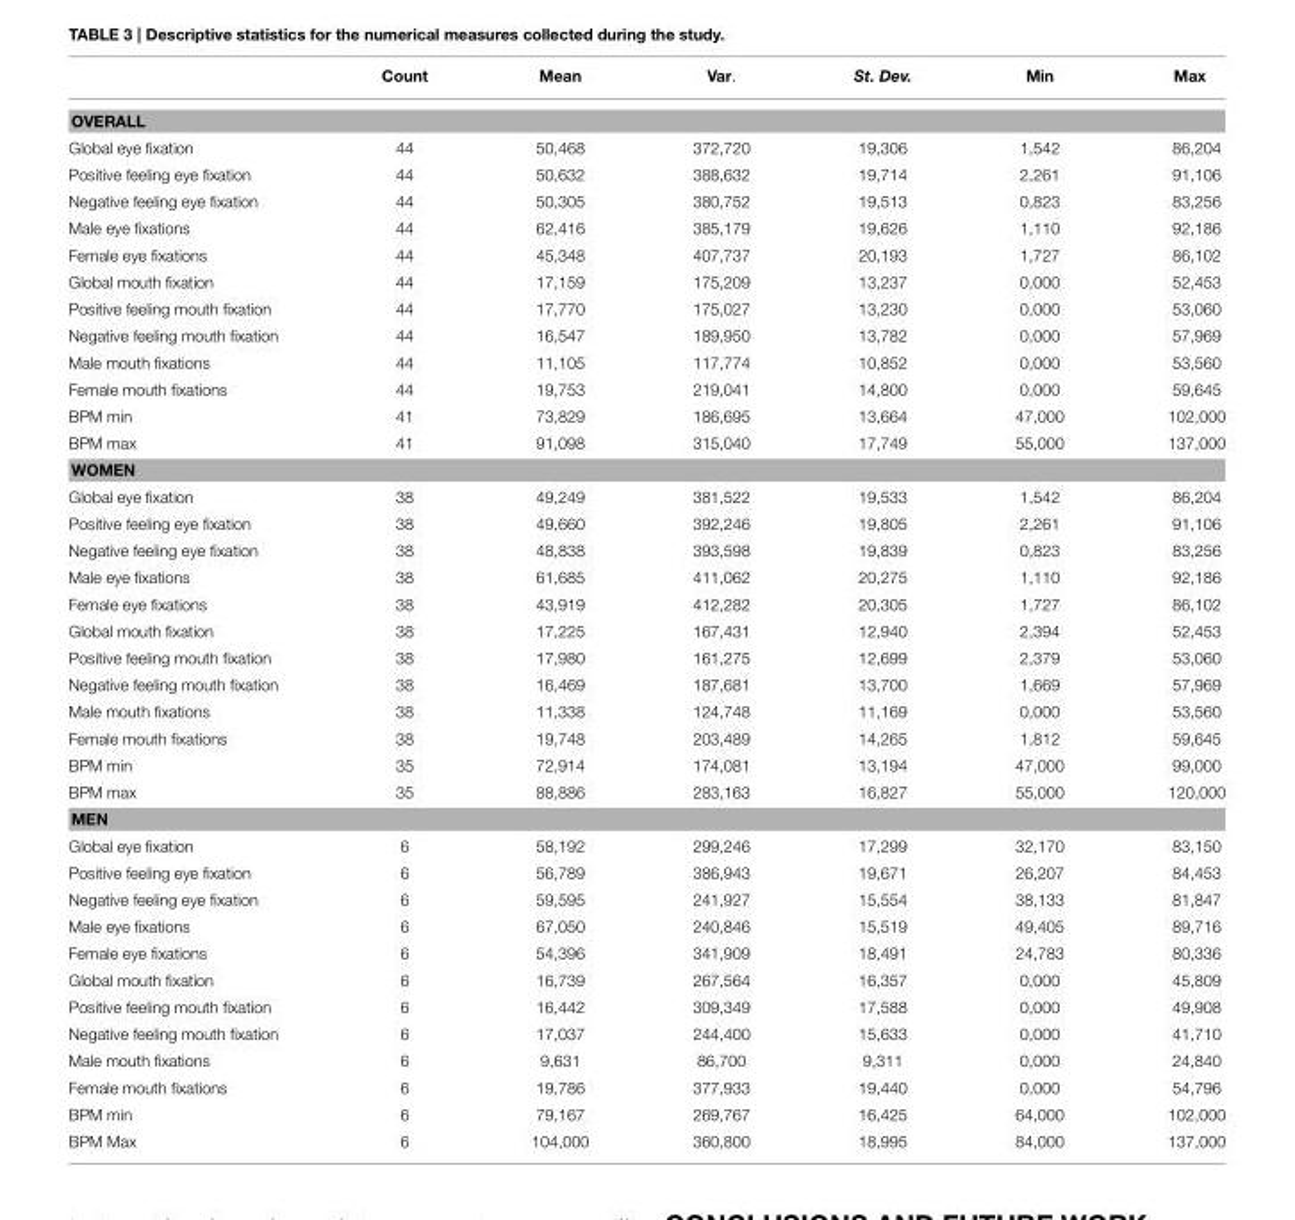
<table><thead><tr><td></td><td>Count</td><td>Mean</td><td>Var.</td><td>St. Dev.</td><td>Min</td><td>Max</td></tr></thead><tbody><tr><td colspan="7">OVERALL</td></tr><tr><td>Global eye fixation</td><td>44</td><td>50,468</td><td>372,720</td><td>19,306</td><td>1,542</td><td>86,204</td></tr><tr><td>Positive feeling eye fixation</td><td>44</td><td>50,632</td><td>388,632</td><td>19,714</td><td>2,261</td><td>91,106</td></tr><tr><td>Negative feeling eye fixation</td><td>44</td><td>50,305</td><td>380,752</td><td>19,513</td><td>0,823</td><td>83,256</td></tr><tr><td>Male eye fixations</td><td>44</td><td>62,416</td><td>385,179</td><td>19,626</td><td>1,110</td><td>92,186</td></tr><tr><td>Female eye fixations</td><td>44</td><td>45,348</td><td>407,737</td><td>20,193</td><td>1,727</td><td>86,102</td></tr><tr><td>Global mouth fixation</td><td>44</td><td>17,159</td><td>175,209</td><td>13,237</td><td>0,000</td><td>52,453</td></tr><tr><td>Positive feeling mouth fixation</td><td>44</td><td>17,770</td><td>175,027</td><td>13,230</td><td>0,000</td><td>53,060</td></tr><tr><td>Negative feeling mouth fixation</td><td>44</td><td>16,547</td><td>189,950</td><td>13,782</td><td>0,000</td><td>57,969</td></tr><tr><td>Male mouth fixations</td><td>44</td><td>11,105</td><td>117,774</td><td>10,852</td><td>0,000</td><td>53,560</td></tr><tr><td>Female mouth fixations</td><td>44</td><td>19,753</td><td>219,041</td><td>14,800</td><td>0,000</td><td>59,645</td></tr><tr><td>BPM min</td><td>41</td><td>73,829</td><td>186,695</td><td>13,664</td><td>47,000</td><td>102,000</td></tr><tr><td>BPM max</td><td>41</td><td>91,098</td><td>315,040</td><td>17,749</td><td>55,000</td><td>137,000</td></tr><tr><td colspan="7">WOMEN</td></tr><tr><td>Global eye fixation</td><td>38</td><td>49,249</td><td>381,522</td><td>19,533</td><td>1,542</td><td>86,204</td></tr><tr><td>Positive feeling eye fixation</td><td>38</td><td>49,660</td><td>392,246</td><td>19,805</td><td>2,261</td><td>91,106</td></tr><tr><td>Negative feeling eye fixation</td><td>38</td><td>48,838</td><td>393,598</td><td>19,839</td><td>0,823</td><td>83,256</td></tr><tr><td>Male eye fixations</td><td>38</td><td>61,685</td><td>411,062</td><td>20,275</td><td>1,110</td><td>92,186</td></tr><tr><td>Female eye fixations</td><td>38</td><td>43,919</td><td>412,282</td><td>20,305</td><td>1,727</td><td>86,102</td></tr><tr><td>Global mouth fixation</td><td>38</td><td>17,225</td><td>167,431</td><td>12,940</td><td>2,394</td><td>52,453</td></tr><tr><td>Positive feeling mouth fixation</td><td>38</td><td>17,980</td><td>161,275</td><td>12,699</td><td>2,379</td><td>53,060</td></tr><tr><td>Negative feeling mouth fixation</td><td>38</td><td>16,469</td><td>187,681</td><td>13,700</td><td>1,669</td><td>57,969</td></tr><tr><td>Male mouth fixations</td><td>38</td><td>11,338</td><td>124,748</td><td>11,169</td><td>0,000</td><td>53,560</td></tr><tr><td>Female mouth fixations</td><td>38</td><td>19,748</td><td>203,489</td><td>14,265</td><td>1,812</td><td>59,645</td></tr><tr><td>BPM min</td><td>35</td><td>72,914</td><td>174,081</td><td>13,194</td><td>47,000</td><td>99,000</td></tr><tr><td>BPM max</td><td>35</td><td>88,886</td><td>283,163</td><td>16,827</td><td>55,000</td><td>120,000</td></tr><tr><td colspan="7">MEN</td></tr><tr><td>Global eye fixation</td><td>6</td><td>58,192</td><td>299,246</td><td>17,299</td><td>32,170</td><td>83,150</td></tr><tr><td>Positive feeling eye fixation</td><td>6</td><td>56,789</td><td>386,943</td><td>19,671</td><td>26,207</td><td>84,453</td></tr><tr><td>Negative feeling eye fixation</td><td>6</td><td>59,595</td><td>241,927</td><td>15,554</td><td>38,133</td><td>81,847</td></tr><tr><td>Male eye fixations</td><td>6</td><td>67,050</td><td>240,846</td><td>15,519</td><td>49,405</td><td>89,716</td></tr><tr><td>Female eye fixations</td><td>6</td><td>54,396</td><td>341,909</td><td>18,491</td><td>24,783</td><td>80,336</td></tr><tr><td>Global mouth fixation</td><td>6</td><td>16,739</td><td>267,564</td><td>16,357</td><td>0,000</td><td>45,809</td></tr><tr><td>Positive feeling mouth fixation</td><td>6</td><td>16,442</td><td>309,349</td><td>17,588</td><td>0,000</td><td>49,908</td></tr><tr><td>Negative feeling mouth fixation</td><td>6</td><td>17,037</td><td>244,400</td><td>15,633</td><td>0,000</td><td>41,710</td></tr><tr><td>Male mouth fixations</td><td>6</td><td>9,631</td><td>86,700</td><td>9,311</td><td>0,000</td><td>24,840</td></tr><tr><td>Female mouth fixations</td><td>6</td><td>19,786</td><td>377,933</td><td>19,440</td><td>0,000</td><td>54,796</td></tr><tr><td>BPM min</td><td>6</td><td>79,167</td><td>269,767</td><td>16,425</td><td>64,000</td><td>102,000</td></tr><tr><td>BPM Max</td><td>6</td><td>104,000</td><td>360,800</td><td>18,995</td><td>84,000</td><td>137,000</td></tr></tbody></table>